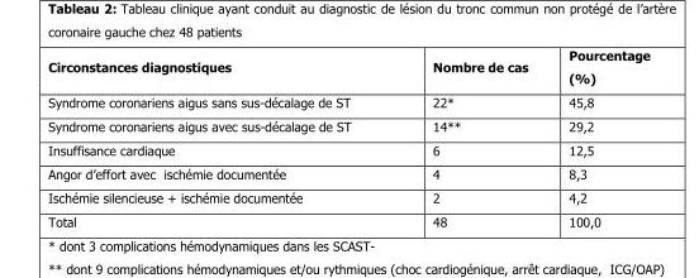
<table><thead><tr><td>Circonstances diagnostiques</td><td>Nombre de cas</td><td>Pourcentage (%)</td></tr></thead><tbody><tr><td>Syndrome coronariens aigus sans sus-décalage de ST</td><td>22*</td><td>45,8</td></tr><tr><td>Syndrome coronariens aigus avec sus-décalage de ST</td><td>14**</td><td>29,2</td></tr><tr><td>Insuffisance cardiaque</td><td>6</td><td>12,5</td></tr><tr><td>Angor d’effort avec ischémie documentée</td><td>4</td><td>8,3</td></tr><tr><td>Ischémie silencieuse + ischémie documentée</td><td>2</td><td>4,2</td></tr><tr><td>Total</td><td>48</td><td>100,0</td></tr></tbody></table>